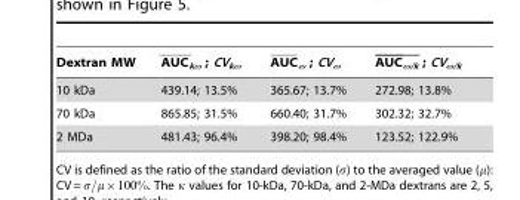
<table><thead><tr><td>Dextran MW</td><td>AUC<sub>kω</sub> ; CV<sub>kω</sub></td><td>AUC<sub>ω</sub> ; CV<sub>ω</sub></td><td>AUC<sub>ω/k</sub> ; CV<sub>ω/k</sub></td></tr></thead><tbody><tr><td>10 kDa</td><td>439.14; 13.5%</td><td>365.67; 13.7%</td><td>272.98; 13.8%</td></tr><tr><td>70 kDa</td><td>865.85; 31.5%</td><td>660.40; 31.7%</td><td>302.32; 32.7%</td></tr><tr><td>2 MDa</td><td>481.43; 96.4%</td><td>398.20; 98.4%</td><td>123.52; 122.9%</td></tr></tbody></table>